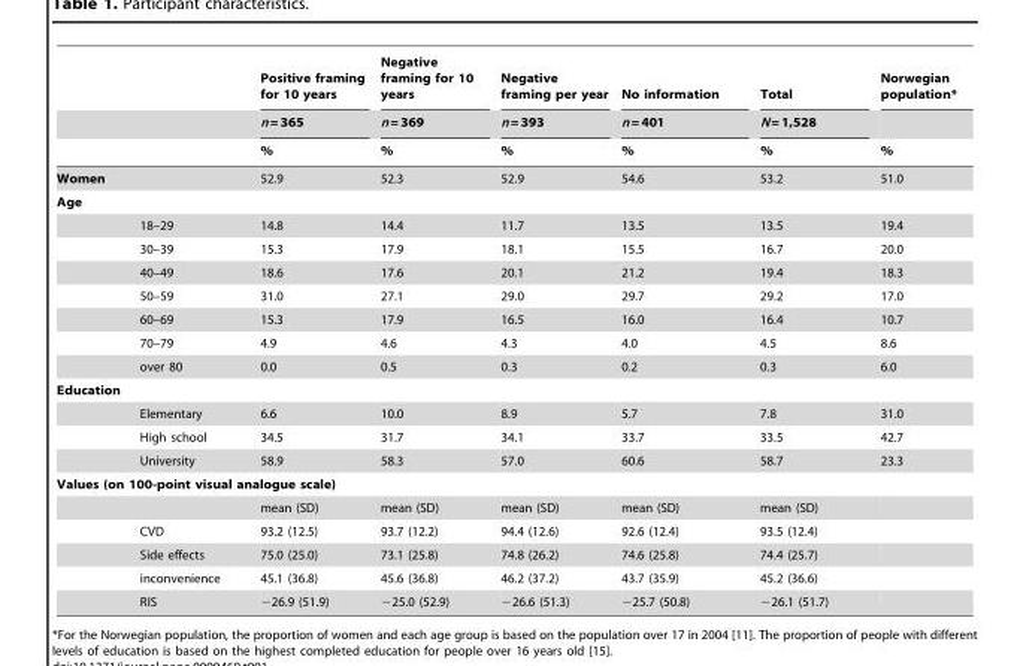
<table><thead><tr><td rowspan="3"></td><td rowspan="3"></td><td rowspan="3">Positive framing for 10 years n = 365 %</td><td rowspan="3">Negative framing for 10 years n = 369 %</td><td rowspan="3">Negative framing per year n = 393 %</td><td rowspan="3">No information n = 401 %</td><td rowspan="3">Total N = 1,528 %</td><td rowspan="3">Norwegian population* %</td></tr><tr></tr><tr></tr></thead><tbody><tr><td colspan="2">Women</td><td>52.9</td><td>52.3</td><td>52.9</td><td>54.6</td><td>53.2</td><td>51.0</td></tr><tr><td colspan="8">Age</td></tr><tr><td></td><td>18–29</td><td>14.8</td><td>14.4</td><td>11.7</td><td>13.5</td><td>13.5</td><td>19.4</td></tr><tr><td></td><td>30–39</td><td>15.3</td><td>17.9</td><td>18.1</td><td>15.5</td><td>16.7</td><td>20.0</td></tr><tr><td></td><td>40–49</td><td>18.6</td><td>17.6</td><td>20.1</td><td>21.2</td><td>19.4</td><td>18.3</td></tr><tr><td></td><td>50–59</td><td>31.0</td><td>27.1</td><td>29.0</td><td>29.7</td><td>29.2</td><td>17.0</td></tr><tr><td></td><td>60–69</td><td>15.3</td><td>17.9</td><td>16.5</td><td>16.0</td><td>16.4</td><td>10.7</td></tr><tr><td></td><td>70–79</td><td>4.9</td><td>4.6</td><td>4.3</td><td>4.0</td><td>4.5</td><td>8.6</td></tr><tr><td></td><td>over 80</td><td>0.0</td><td>0.5</td><td>0.3</td><td>0.2</td><td>0.3</td><td>6.0</td></tr><tr><td colspan="8">Education</td></tr><tr><td></td><td>Elementary</td><td>6.6</td><td>10.0</td><td>8.9</td><td>5.7</td><td>7.8</td><td>31.0</td></tr><tr><td></td><td>High school</td><td>34.5</td><td>31.7</td><td>34.1</td><td>33.7</td><td>33.5</td><td>42.7</td></tr><tr><td></td><td>University</td><td>58.9</td><td>58.3</td><td>57.0</td><td>60.6</td><td>58.7</td><td>23.3</td></tr><tr><td colspan="8">Values (on 100-point visual analogue scale)</td></tr><tr><td></td><td></td><td>mean (SD)</td><td>mean (SD)</td><td>mean (SD)</td><td>mean (SD)</td><td>mean (SD)</td><td></td></tr><tr><td></td><td>CVD</td><td>93.2 (12.5)</td><td>93.7 (12.2)</td><td>94.4 (12.6)</td><td>92.6 (12.4)</td><td>93.5 (12.4)</td><td></td></tr><tr><td></td><td>Side effects</td><td>75.0 (25.0)</td><td>73.1 (25.8)</td><td>74.8 (26.2)</td><td>74.6 (25.8)</td><td>74.4 (25.7)</td><td></td></tr><tr><td></td><td>inconvenience</td><td>45.1 (36.8)</td><td>45.6 (36.8)</td><td>46.2 (37.2)</td><td>43.7 (35.9)</td><td>45.2 (36.6)</td><td></td></tr><tr><td></td><td>RIS</td><td>−26.9 (51.9)</td><td>−25.0 (52.9)</td><td>−26.6 (51.3)</td><td>−25.7 (50.8)</td><td>−26.1 (51.7)</td><td></td></tr></tbody></table>